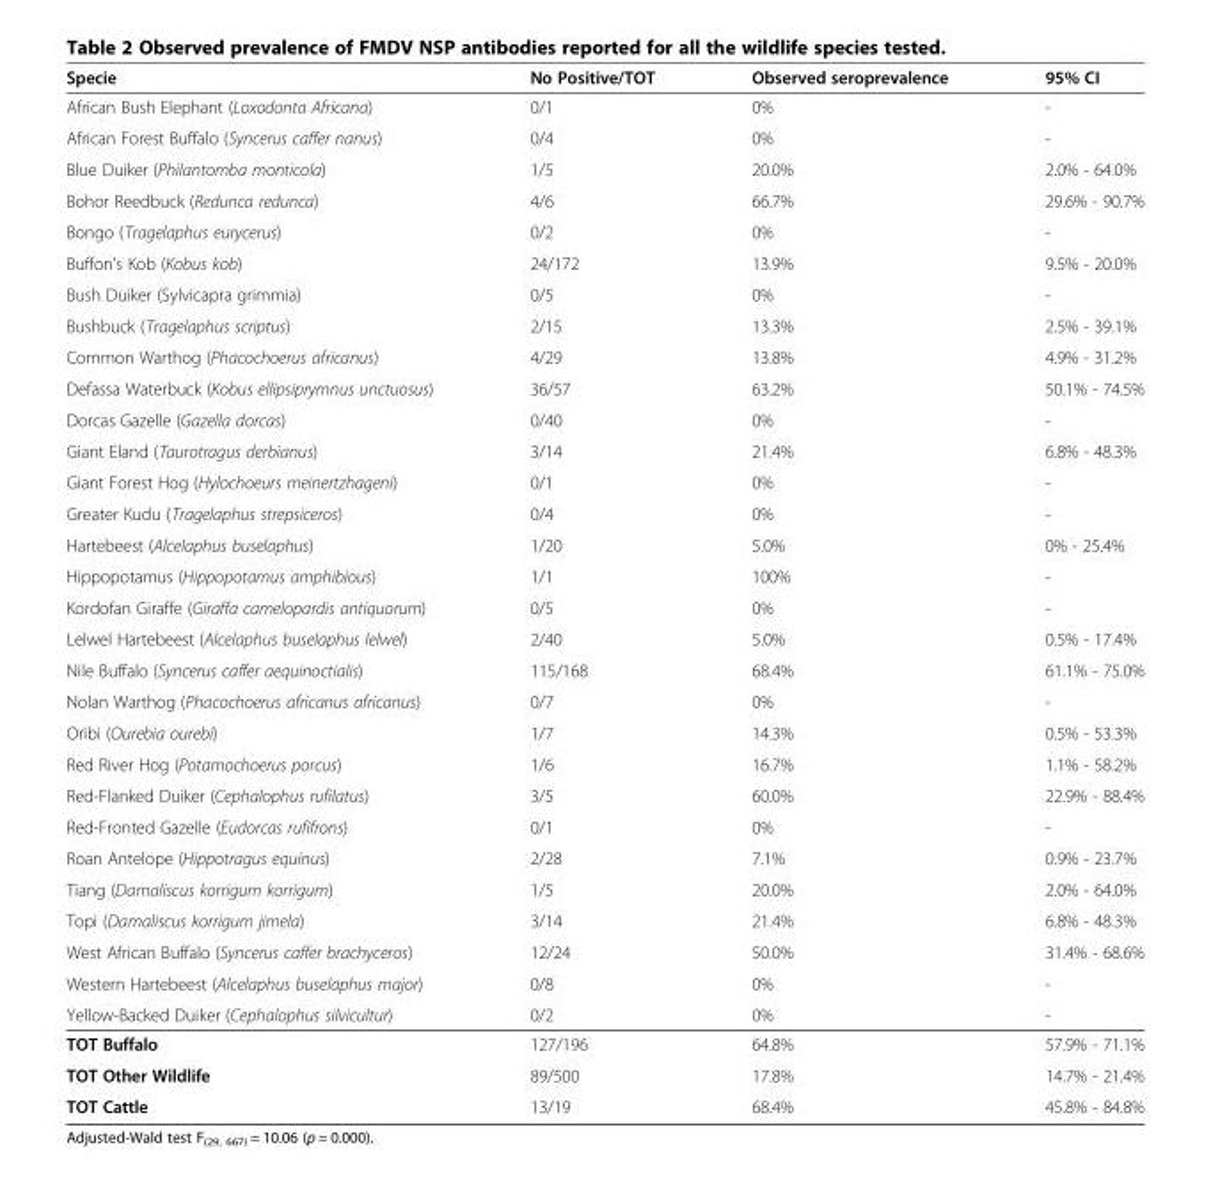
<table><thead><tr><td>Specie</td><td>No Positive/TOT</td><td>Observed seroprevalence</td><td>95% CI</td></tr></thead><tbody><tr><td>African Bush Elephant (Loxodonta Africana)</td><td>0/1</td><td>0%</td><td>-</td></tr><tr><td>African Forest Buffalo (Syncerus caffer nanus)</td><td>0/4</td><td>0%</td><td>-</td></tr><tr><td>Blue Duiker (Philantomba monticola)</td><td>1/5</td><td>20.0%</td><td>2.0% - 64.0%</td></tr><tr><td>Bohor Reedbuck (Redunca redunca)</td><td>4/6</td><td>66.7%</td><td>29.6% - 90.7%</td></tr><tr><td>Bongo (Tragelaphus eurycerus)</td><td>0/2</td><td>0%</td><td>-</td></tr><tr><td>Buffon’s Kob (Kobus kob)</td><td>24/172</td><td>13.9%</td><td>9.5% - 20.0%</td></tr><tr><td>Bush Duiker (Sylvicapra grimmia)</td><td>0/5</td><td>0%</td><td>-</td></tr><tr><td>Bushbuck (Tragelaphus scriptus)</td><td>2/15</td><td>13.3%</td><td>2.5% - 39.1%</td></tr><tr><td>Common Warthog (Phacochoerus africanus)</td><td>4/29</td><td>13.8%</td><td>4.9% - 31.2%</td></tr><tr><td>Defassa Waterbuck (Kobus ellipsiprymnus unctuosus)</td><td>36/57</td><td>63.2%</td><td>50.1% - 74.5%</td></tr><tr><td>Dorcas Gazelle (Gazella dorcas)</td><td>0/40</td><td>0%</td><td>-</td></tr><tr><td>Giant Eland (Taurotragus derbianus)</td><td>3/14</td><td>21.4%</td><td>6.8% - 48.3%</td></tr><tr><td>Giant Forest Hog (Hylochoeurs meinertzhageni)</td><td>0/1</td><td>0%</td><td>-</td></tr><tr><td>Greater Kudu (Tragelaphus strepsiceros)</td><td>0/4</td><td>0%</td><td>-</td></tr><tr><td>Hartebeest (Alcelaphus buselaphus)</td><td>1/20</td><td>5.0%</td><td>0% - 25.4%</td></tr><tr><td>Hippopotamus (Hippopotamus amphibious)</td><td>1/1</td><td>100%</td><td>-</td></tr><tr><td>Kordofan Giraffe (Giraffa camelopardis antiquorum)</td><td>0/5</td><td>0%</td><td>-</td></tr><tr><td>Lelwel Hartebeest (Alcelaphus buselaphus lelwel)</td><td>2/40</td><td>5.0%</td><td>0.5% - 17.4%</td></tr><tr><td>Nile Buffalo (Syncerus caffer aequinoctialis)</td><td>115/168</td><td>68.4%</td><td>61.1% - 75.0%</td></tr><tr><td>Nolan Warthog (Phacochoerus africanus africanus)</td><td>0/7</td><td>0%</td><td>-</td></tr><tr><td>Oribi (Ourebia ourebi)</td><td>1/7</td><td>14.3%</td><td>0.5% - 53.3%</td></tr><tr><td>Red River Hog (Potamochoerus porcus)</td><td>1/6</td><td>16.7%</td><td>1.1% - 58.2%</td></tr><tr><td>Red-Flanked Duiker (Cephalophus rufilatus)</td><td>3/5</td><td>60.0%</td><td>22.9% - 88.4%</td></tr><tr><td>Red-Fronted Gazelle (Eudorcas rufifrons)</td><td>0/1</td><td>0%</td><td>-</td></tr><tr><td>Roan Antelope (Hippotragus equinus)</td><td>2/28</td><td>7.1%</td><td>0.9% - 23.7%</td></tr><tr><td>Tiang (Damaliscus korrigum korrigum)</td><td>1/5</td><td>20.0%</td><td>2.0% - 64.0%</td></tr><tr><td>Topi (Damaliscus korrigum jimela)</td><td>3/14</td><td>21.4%</td><td>6.8% - 48.3%</td></tr><tr><td>West African Buffalo (Syncerus caffer brachyceros)</td><td>12/24</td><td>50.0%</td><td>31.4% - 68.6%</td></tr><tr><td>Western Hartebeest (Alcelaphus buselaphus major)</td><td>0/8</td><td>0%</td><td>-</td></tr><tr><td>Yellow-Backed Duiker (Cephalophus silvicultur)</td><td>0/2</td><td>0%</td><td>-</td></tr><tr><td>TOT Buffalo</td><td>127/196</td><td>64.8%</td><td>57.9% - 71.1%</td></tr><tr><td>TOT Other Wildlife</td><td>89/500</td><td>17.8%</td><td>14.7% - 21.4%</td></tr><tr><td>TOT Cattle</td><td>13/19</td><td>68.4%</td><td>45.8% - 84.8%</td></tr></tbody></table>